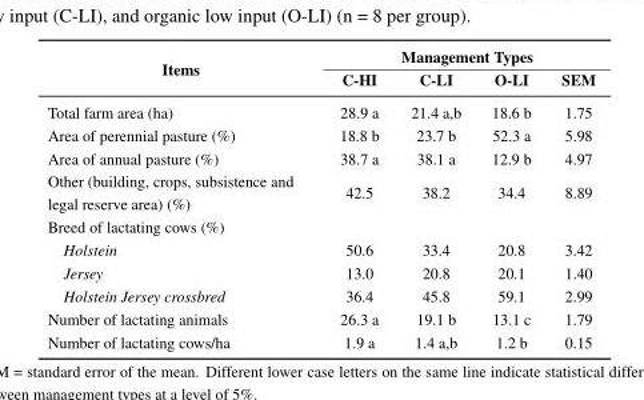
<table><thead><tr><td rowspan="2">Items</td><td colspan="4">Management Types</td></tr><tr><td>C-HI</td><td>C-LI</td><td>O-LI</td><td>SEM</td></tr></thead><tbody><tr><td>Total farm area (ha)</td><td>28.9 a</td><td>21.4 a,b</td><td>18.6 b</td><td>1.75</td></tr><tr><td>Area of perennial pasture (%)</td><td>18.8 b</td><td>23.7 b</td><td>52.3 a</td><td>5.98</td></tr><tr><td>Area of annual pasture (%)</td><td>38.7 a</td><td>38.1 a</td><td>12.9 b</td><td>4.97</td></tr><tr><td>Other (building, crops, subsistence and legal reserve area) (%)</td><td>42.5</td><td>38.2</td><td>34.4</td><td>8.89</td></tr><tr><td colspan="5">Breed of lactating cows (%)</td></tr><tr><td>Holstein</td><td>50.6</td><td>33.4</td><td>20.8</td><td>3.42</td></tr><tr><td>Jersey</td><td>13.0</td><td>20.8</td><td>20.1</td><td>1.40</td></tr><tr><td>Holstein Jersey crossbred</td><td>36.4</td><td>45.8</td><td>59.1</td><td>2.99</td></tr><tr><td>Number of lactating animals</td><td>26.3 a</td><td>19.1 b</td><td>13.1 c</td><td>1.79</td></tr><tr><td>Number of lactating cows/ha</td><td>1.9 a</td><td>1.4 a,b</td><td>1.2 b</td><td>0.15</td></tr></tbody></table>